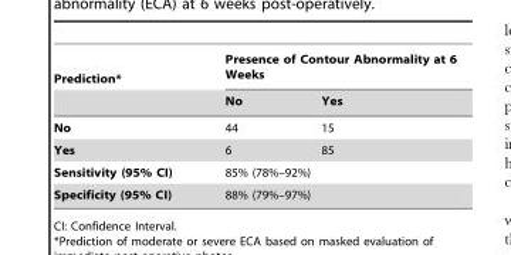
<table><thead><tr><td rowspan="2">Prediction*</td><td colspan="2">Presence of Contour Abnormality at 6 Weeks</td></tr><tr><td>No</td><td>Yes</td></tr></thead><tbody><tr><td>No</td><td>44</td><td>15</td></tr><tr><td>Yes</td><td>6</td><td>85</td></tr><tr><td>Sensitivity (95% CI)</td><td colspan="2">85% (78%–92%)</td></tr><tr><td>Specificity (95% CI)</td><td colspan="2">88% (79%–97%)</td></tr></tbody></table>